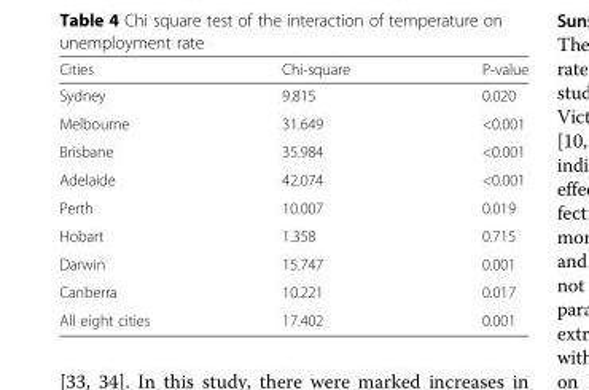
<table><thead><tr><td>Cities</td><td>Chi-square</td><td>P-value</td></tr></thead><tbody><tr><td>Sydney</td><td>9.815</td><td>0.020</td></tr><tr><td>Melbourne</td><td>31.649</td><td>&lt;0.001</td></tr><tr><td>Brisbane</td><td>35.984</td><td>&lt;0.001</td></tr><tr><td>Adelaide</td><td>42.074</td><td>&lt;0.001</td></tr><tr><td>Perth</td><td>10.007</td><td>0.019</td></tr><tr><td>Hobart</td><td>1.358</td><td>0.715</td></tr><tr><td>Darwin</td><td>15.747</td><td>0.001</td></tr><tr><td>Canberra</td><td>10.221</td><td>0.017</td></tr><tr><td>All eight cities</td><td>17.402</td><td>0.001</td></tr></tbody></table>